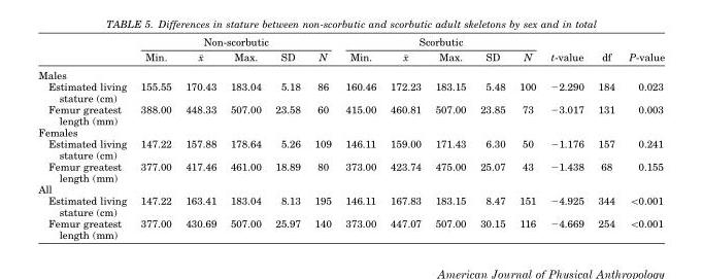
<table><thead><tr><td rowspan="2"></td><td colspan="5">Non-scorbutic</td><td colspan="5">Scorbutic</td><td rowspan="2">t-value</td><td rowspan="2">df</td><td rowspan="2">P-value</td></tr><tr><td>Min.</td><td>�x</td><td>Max.</td><td>SD</td><td>N</td><td>Min.</td><td>�x</td><td>Max.</td><td>SD</td><td>N</td></tr></thead><tbody><tr><td colspan="14">Males</td></tr><tr><td>Estimated living stature (cm)</td><td>155.55</td><td>170.43</td><td>183.04</td><td>5.18</td><td>86</td><td>160.46</td><td>172.23</td><td>183.15</td><td>5.48</td><td>100</td><td>−2.290</td><td>184</td><td>0.023</td></tr><tr><td>Femur greatest length (mm)</td><td>388.00</td><td>448.33</td><td>507.00</td><td>23.58</td><td>60</td><td>415.00</td><td>460.81</td><td>507.00</td><td>23.85</td><td>73</td><td>−3.017</td><td>131</td><td>0.003</td></tr><tr><td colspan="14">Females</td></tr><tr><td>Estimated living stature (cm)</td><td>147.22</td><td>157.88</td><td>178.64</td><td>5.26</td><td>109</td><td>146.11</td><td>159.00</td><td>171.43</td><td>6.30</td><td>50</td><td>−1.176</td><td>157</td><td>0.241</td></tr><tr><td>Femur greatest length (mm)</td><td>377.00</td><td>417.46</td><td>461.00</td><td>18.89</td><td>80</td><td>373.00</td><td>423.74</td><td>475.00</td><td>25.07</td><td>43</td><td>−1.438</td><td>68</td><td>0.155</td></tr><tr><td colspan="14">All</td></tr><tr><td>Estimated living stature (cm)</td><td>147.22</td><td>163.41</td><td>183.04</td><td>8.13</td><td>195</td><td>146.11</td><td>167.83</td><td>183.15</td><td>8.47</td><td>151</td><td>−4.925</td><td>344</td><td>&lt;0.001</td></tr><tr><td>Femur greatest length (mm)</td><td>377.00</td><td>430.69</td><td>507.00</td><td>25.97</td><td>140</td><td>373.00</td><td>447.07</td><td>507.00</td><td>30.15</td><td>116</td><td>−4.669</td><td>254</td><td>&lt;0.001</td></tr></tbody></table>